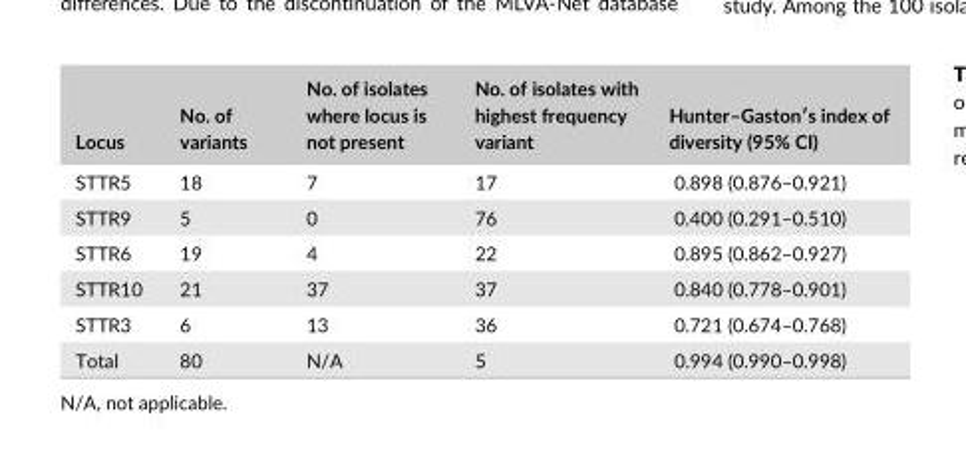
<table><thead><tr><td>Locus</td><td>No. of variants</td><td>No. of isolates where locus is not present</td><td>No. of isolates with highest frequency variant</td><td>Hunter–Gaston′s index of diversity (95% CI)</td></tr></thead><tbody><tr><td>STTR5</td><td>18</td><td>7</td><td>17</td><td>0.898 (0.876–0.921)</td></tr><tr><td>STTR9</td><td>5</td><td>0</td><td>76</td><td>0.400 (0.291–0.510)</td></tr><tr><td>STTR6</td><td>19</td><td>4</td><td>22</td><td>0.895 (0.862–0.927)</td></tr><tr><td>STTR10</td><td>21</td><td>37</td><td>37</td><td>0.840 (0.778–0.901)</td></tr><tr><td>STTR3</td><td>6</td><td>13</td><td>36</td><td>0.721 (0.674–0.768)</td></tr><tr><td>Total</td><td>80</td><td>N/A</td><td>5</td><td>0.994 (0.990–0.998)</td></tr></tbody></table>